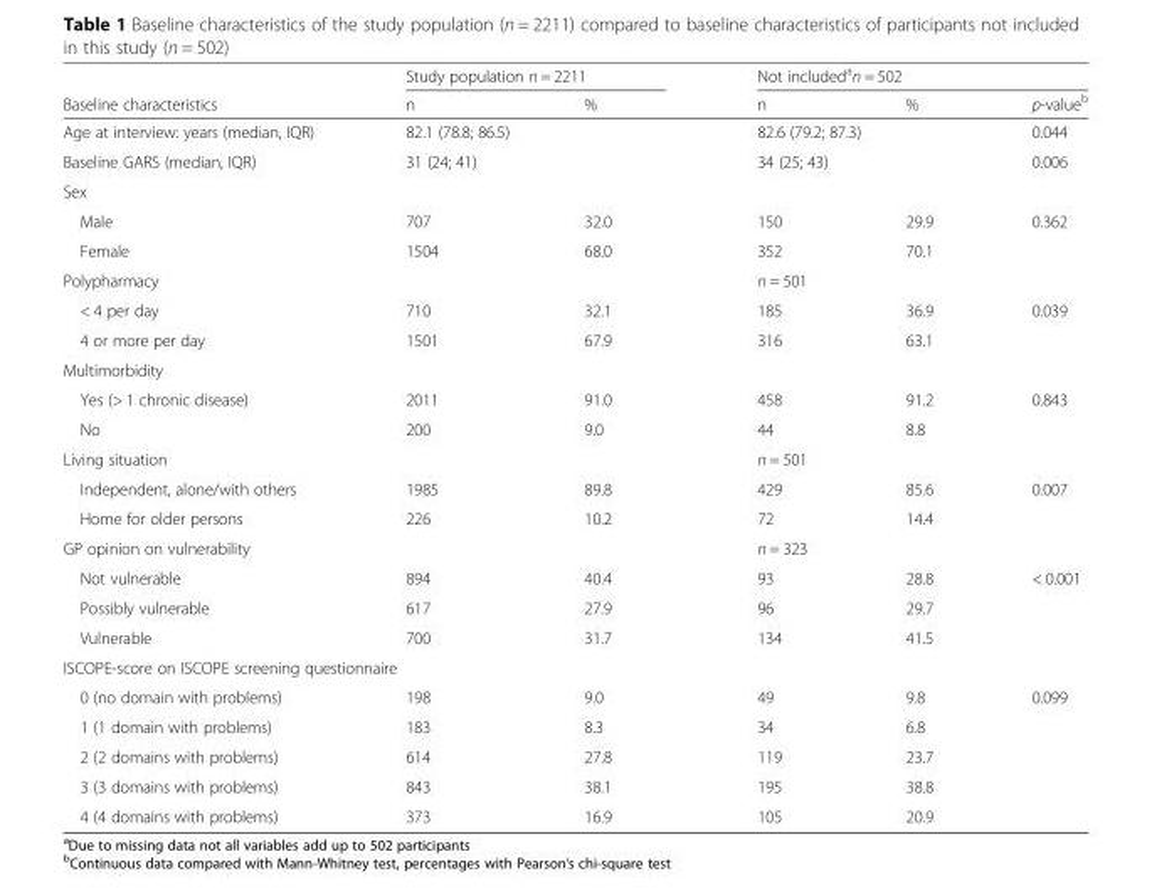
<table><thead><tr><td rowspan="2">Baseline characteristics</td><td colspan="2">Study population n = 2211</td><td colspan="3">Not included<sup>a</sup>n = 502</td></tr><tr><td>n</td><td>%</td><td>n</td><td>%</td><td>p-value<sup>b</sup></td></tr></thead><tbody><tr><td>Age at interview: years (median, IQR)</td><td colspan="2">82.1 (78.8; 86.5)</td><td colspan="2">82.6 (79.2; 87.3)</td><td>0.044</td></tr><tr><td>Baseline GARS (median, IQR)</td><td colspan="2">31 (24; 41)</td><td colspan="2">34 (25; 43)</td><td>0.006</td></tr><tr><td colspan="6">Sex</td></tr><tr><td>Male</td><td>707</td><td>32.0</td><td>150</td><td>29.9</td><td>0.362</td></tr><tr><td>Female</td><td>1504</td><td>68.0</td><td>352</td><td>70.1</td><td></td></tr><tr><td>Polypharmacy</td><td></td><td></td><td>n = 501</td><td></td><td></td></tr><tr><td>&lt; 4 per day</td><td>710</td><td>32.1</td><td>185</td><td>36.9</td><td>0.039</td></tr><tr><td>4 or more per day</td><td>1501</td><td>67.9</td><td>316</td><td>63.1</td><td></td></tr><tr><td colspan="6">Multimorbidity</td></tr><tr><td>Yes (&gt; 1 chronic disease)</td><td>2011</td><td>91.0</td><td>458</td><td>91.2</td><td>0.843</td></tr><tr><td>No</td><td>200</td><td>9.0</td><td>44</td><td>8.8</td><td></td></tr><tr><td>Living situation</td><td></td><td></td><td>n = 501</td><td></td><td></td></tr><tr><td>Independent, alone/with others</td><td>1985</td><td>89.8</td><td>429</td><td>85.6</td><td>0.007</td></tr><tr><td>Home for older persons</td><td>226</td><td>10.2</td><td>72</td><td>14.4</td><td></td></tr><tr><td>GP opinion on vulnerability</td><td></td><td></td><td>n = 323</td><td></td><td></td></tr><tr><td>Not vulnerable</td><td>894</td><td>40.4</td><td>93</td><td>28.8</td><td>&lt; 0.001</td></tr><tr><td>Possibly vulnerable</td><td>617</td><td>27.9</td><td>96</td><td>29.7</td><td></td></tr><tr><td>Vulnerable</td><td>700</td><td>31.7</td><td>134</td><td>41.5</td><td></td></tr><tr><td colspan="6">ISCOPE-score on ISCOPE screening questionnaire</td></tr><tr><td>0 (no domain with problems)</td><td>198</td><td>9.0</td><td>49</td><td>9.8</td><td>0.099</td></tr><tr><td>1 (1 domain with problems)</td><td>183</td><td>8.3</td><td>34</td><td>6.8</td><td></td></tr><tr><td>2 (2 domains with problems)</td><td>614</td><td>27.8</td><td>119</td><td>23.7</td><td></td></tr><tr><td>3 (3 domains with problems)</td><td>843</td><td>38.1</td><td>195</td><td>38.8</td><td></td></tr><tr><td>4 (4 domains with problems)</td><td>373</td><td>16.9</td><td>105</td><td>20.9</td><td></td></tr></tbody></table>